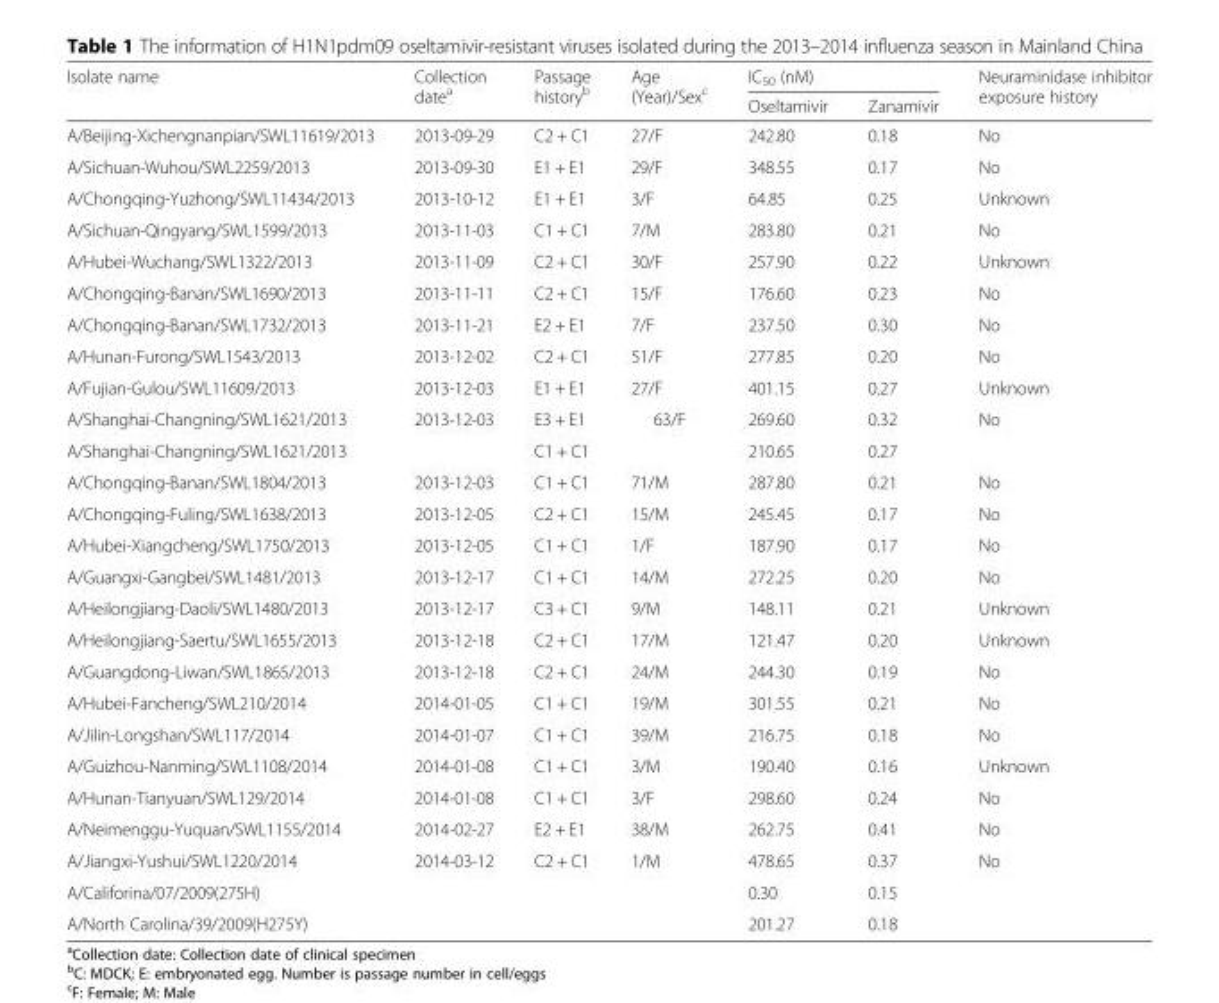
<table><thead><tr><td rowspan="2">Isolate name</td><td rowspan="2">Collection date<sup>a</sup></td><td rowspan="2">Passage history<sup>b</sup></td><td rowspan="2">Age (Year)/Sex<sup>c</sup></td><td colspan="2">IC<sub>50</sub> (nM)</td><td rowspan="2">Neuraminidase inhibitor exposure history</td></tr><tr><td>Oseltamivir</td><td>Zanamivir</td></tr></thead><tbody><tr><td>A/Beijing-Xichengnanpian/SWL11619/2013</td><td>2013-09-29</td><td>C2 + C1</td><td>27/F</td><td>242.80</td><td>0.18</td><td>No</td></tr><tr><td>A/Sichuan-Wuhou/SWL2259/2013</td><td>2013-09-30</td><td>E1 + E1</td><td>29/F</td><td>348.55</td><td>0.17</td><td>No</td></tr><tr><td>A/Chongqing-Yuzhong/SWL11434/2013</td><td>2013-10-12</td><td>E1 + E1</td><td>3/F</td><td>64.85</td><td>0.25</td><td>Unknown</td></tr><tr><td>A/Sichuan-Qingyang/SWL1599/2013</td><td>2013-11-03</td><td>C1 + C1</td><td>7/M</td><td>283.80</td><td>0.21</td><td>No</td></tr><tr><td>A/Hubei-Wuchang/SWL1322/2013</td><td>2013-11-09</td><td>C2 + C1</td><td>30/F</td><td>257.90</td><td>0.22</td><td>Unknown</td></tr><tr><td>A/Chongqing-Banan/SWL1690/2013</td><td>2013-11-11</td><td>C2 + C1</td><td>15/F</td><td>176.60</td><td>0.23</td><td>No</td></tr><tr><td>A/Chongqing-Banan/SWL1732/2013</td><td>2013-11-21</td><td>E2 + E1</td><td>7/F</td><td>237.50</td><td>0.30</td><td>No</td></tr><tr><td>A/Hunan-Furong/SWL1543/2013</td><td>2013-12-02</td><td>C2 + C1</td><td>51/F</td><td>277.85</td><td>0.20</td><td>No</td></tr><tr><td>A/Fujian-Gulou/SWL11609/2013</td><td>2013-12-03</td><td>E1 + E1</td><td>27/F</td><td>401.15</td><td>0.27</td><td>Unknown</td></tr><tr><td>A/Shanghai-Changning/SWL1621/2013</td><td rowspan="2">2013-12-03</td><td>E3 + E1</td><td rowspan="2">63/F</td><td>269.60</td><td>0.32</td><td rowspan="2">No</td></tr><tr><td>A/Shanghai-Changning/SWL1621/2013</td><td>C1 + C1</td><td>210.65</td><td>0.27</td></tr><tr><td>A/Chongqing-Banan/SWL1804/2013</td><td>2013-12-03</td><td>C1 + C1</td><td>71/M</td><td>287.80</td><td>0.21</td><td>No</td></tr><tr><td>A/Chongqing-Fuling/SWL1638/2013</td><td>2013-12-05</td><td>C2 + C1</td><td>15/M</td><td>245.45</td><td>0.17</td><td>No</td></tr><tr><td>A/Hubei-Xiangcheng/SWL1750/2013</td><td>2013-12-05</td><td>C1 + C1</td><td>1/F</td><td>187.90</td><td>0.17</td><td>No</td></tr><tr><td>A/Guangxi-Gangbei/SWL1481/2013</td><td>2013-12-17</td><td>C1 + C1</td><td>14/M</td><td>272.25</td><td>0.20</td><td>No</td></tr><tr><td>A/Heilongjiang-Daoli/SWL1480/2013</td><td>2013-12-17</td><td>C3 + C1</td><td>9/M</td><td>148.11</td><td>0.21</td><td>Unknown</td></tr><tr><td>A/Heilongjiang-Saertu/SWL1655/2013</td><td>2013-12-18</td><td>C2 + C1</td><td>17/M</td><td>121.47</td><td>0.20</td><td>Unknown</td></tr><tr><td>A/Guangdong-Liwan/SWL1865/2013</td><td>2013-12-18</td><td>C2 + C1</td><td>24/M</td><td>244.30</td><td>0.19</td><td>No</td></tr><tr><td>A/Hubei-Fancheng/SWL210/2014</td><td>2014-01-05</td><td>C1 + C1</td><td>19/M</td><td>301.55</td><td>0.21</td><td>No</td></tr><tr><td>A/Jilin-Longshan/SWL117/2014</td><td>2014-01-07</td><td>C1 + C1</td><td>39/M</td><td>216.75</td><td>0.18</td><td>No</td></tr><tr><td>A/Guizhou-Nanming/SWL1108/2014</td><td>2014-01-08</td><td>C1 + C1</td><td>3/M</td><td>190.40</td><td>0.16</td><td>Unknown</td></tr><tr><td>A/Hunan-Tianyuan/SWL129/2014</td><td>2014-01-08</td><td>C1 + C1</td><td>3/F</td><td>298.60</td><td>0.24</td><td>No</td></tr><tr><td>A/Neimenggu-Yuquan/SWL1155/2014</td><td>2014-02-27</td><td>E2 + E1</td><td>38/M</td><td>262.75</td><td>0.41</td><td>No</td></tr><tr><td>A/Jiangxi-Yushui/SWL1220/2014</td><td>2014-03-12</td><td>C2 + C1</td><td>1/M</td><td>478.65</td><td>0.37</td><td>No</td></tr><tr><td>A/Califorina/07/2009(275H)</td><td></td><td></td><td></td><td>0.30</td><td>0.15</td><td></td></tr><tr><td>A/North Carolina/39/2009(H275Y)</td><td></td><td></td><td></td><td>201.27</td><td>0.18</td><td></td></tr></tbody></table>